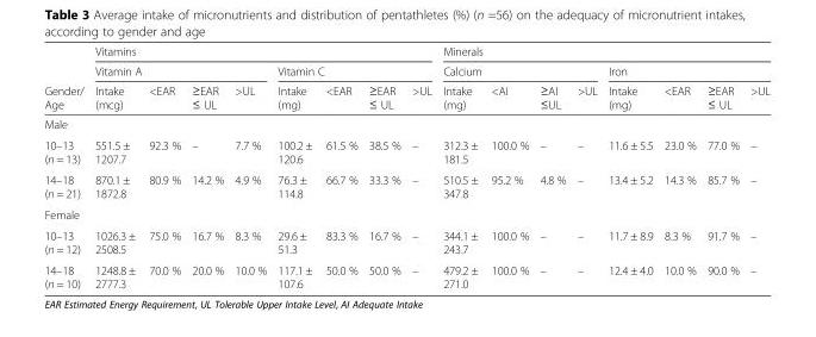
<table><thead><tr><td rowspan="3">Gender/ Age</td><td colspan="8">Vitamins</td><td colspan="8">Minerals</td></tr><tr><td colspan="4">Vitamin A</td><td colspan="4">Vitamin C</td><td colspan="4">Calcium</td><td colspan="4">Iron</td></tr><tr><td>Intake (mcg)</td><td>&lt;EAR</td><td>≥EAR ≤ UL</td><td>&gt;UL</td><td>Intake (mg)</td><td>&lt;EAR</td><td>≥EAR ≤ UL</td><td>&gt;UL</td><td>Intake (mg)</td><td>&lt;AI</td><td>≥AI ≤UL</td><td>&gt;UL</td><td>Intake (mg)</td><td>&lt;EAR</td><td>≥EAR ≤ UL</td><td>&gt;UL</td></tr></thead><tbody><tr><td colspan="17">Male</td></tr><tr><td>10–13 (n = 13)</td><td>551.5 ± 1207.7</td><td>92.3 %</td><td>–</td><td>7.7 %</td><td>100.2 ± 120.6</td><td>61.5 %</td><td>38.5 %</td><td>–</td><td>312.3 ± 181.5</td><td>100.0 %</td><td>–</td><td>–</td><td>11.6 ± 5.5</td><td>23.0 %</td><td>77.0 %</td><td>–</td></tr><tr><td>14–18 (n = 21)</td><td>870.1 ± 1872.8</td><td>80.9 %</td><td>14.2 %</td><td>4.9 %</td><td>76.3 ± 114.8</td><td>66.7 %</td><td>33.3 %</td><td>–</td><td>510.5 ± 347.8</td><td>95.2 %</td><td>4.8 %</td><td>–</td><td>13.4 ± 5.2</td><td>14.3 %</td><td>85.7 %</td><td>–</td></tr><tr><td colspan="17">Female</td></tr><tr><td>10–13 (n = 12)</td><td>1026.3 ± 2508.5</td><td>75.0 %</td><td>16.7 %</td><td>8.3 %</td><td>29.6 ± 51.3</td><td>83.3 %</td><td>16.7 %</td><td>–</td><td>344.1 ± 243.7</td><td>100.0 %</td><td>–</td><td>–</td><td>11.7 ± 8.9</td><td>8.3 %</td><td>91.7 %</td><td>–</td></tr><tr><td>14–18 (n = 10)</td><td>1248.8 ± 2777.3</td><td>70.0 %</td><td>20.0 %</td><td>10.0 %</td><td>117.1 ± 107.6</td><td>50.0 %</td><td>50.0 %</td><td>–</td><td>479.2 ± 271.0</td><td>100.0 %</td><td>–</td><td>–</td><td>12.4 ± 4.0</td><td>10.0 %</td><td>90.0 %</td><td>–</td></tr></tbody></table>